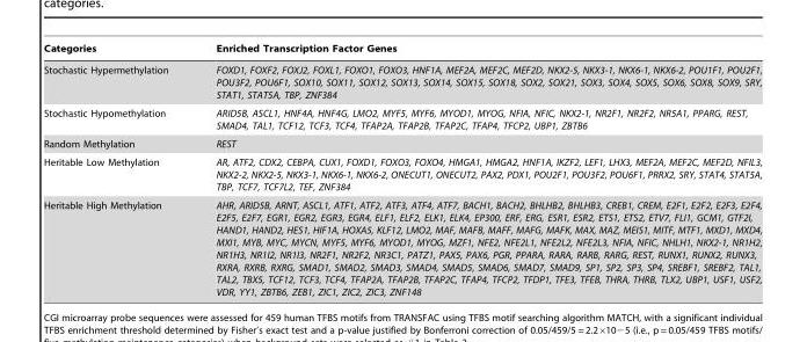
<table><thead><tr><td>Categories</td><td>Enriched Transcription Factor Genes</td></tr></thead><tbody><tr><td>Stochastic Hypermethylation</td><td>FOXD1, FOXF2, FOXJ2, FOXL1, FOXO1, FOXO3, HNF1A, MEF2A, MEF2C, MEF2D, NKX2-5, NKX3-1, NKX6-1, NKX6-2, POU1F1, POU2F1, POU3F2, POU6F1, SOX10, SOX11, SOX12, SOX13, SOX14, SOX15, SOX18, SOX2, SOX21, SOX3, SOX4, SOX5, SOX6, SOX8, SOX9, SRY, STAT1, STAT5A, TBP, ZNF384</td></tr><tr><td>Stochastic Hypomethylation</td><td>ARID5B, ASCL1, HNF4A, HNF4G, LMO2, MYF5, MYF6, MYOD1, MYOG, NFIA, NFIC, NKX2-1, NR2F1, NR2F2, NR5A1, PPARG, REST, SMAD4, TAL1, TCF12, TCF3, TCF4, TFAP2A, TFAP2B, TFAP2C, TFAP4, TFCP2, UBP1, ZBTB6</td></tr><tr><td>Random Methylation</td><td>REST</td></tr><tr><td>Heritable Low Methylation</td><td>AR, ATF2, CDX2, CEBPA, CUX1, FOXD1, FOXO3, FOXO4, HMGA1, HMGA2, HNF1A, IKZF2, LEF1, LHX3, MEF2A, MEF2C, MEF2D, NFIL3, NKX2-2, NKX2-5, NKX3-1, NKX6-1, NKX6-2, ONECUT1, ONECUT2, PAX2, PDX1, POU2F1, POU3F2, POU6F1, PRRX2, SRY, STAT4, STAT5A, TBP, TCF7, TCF7L2, TEF, ZNF384</td></tr><tr><td>Heritable High Methylation</td><td>AHR, ARID5B, ARNT, ASCL1, ATF1, ATF2, ATF3, ATF4, ATF7, BACH1, BACH2, BHLHB2, BHLHB3, CREB1, CREM, E2F1, E2F2, E2F3, E2F4, E2F5, E2F7, EGR1, EGR2, EGR3, EGR4, ELF1, ELF2, ELK1, ELK4, EP300, ERF, ERG, ESR1, ESR2, ETS1, ETS2, ETV7, FLI1, GCM1, GTF2I, HAND1, HAND2, HES1, HIF1A, HOXA5, KLF12, LMO2, MAF, MAFB, MAFF, MAFG, MAFK, MAX, MAZ, MEIS1, MITF, MTF1, MXD1, MXD4, MXI1, MYB, MYC, MYCN, MYF5, MYF6, MYOD1, MYOG, MZF1, NFE2, NFE2L1, NFE2L2, NFE2L3, NFIA, NFIC, NHLH1, NKX2-1, NR1H2, NR1H3, NR1I2, NR1I3, NR2F1, NR2F2, NR3C1, PATZ1, PAX5, PAX6, PGR, PPARA, RARA, RARB, RARG, REST, RUNX1, RUNX2, RUNX3, RXRA, RXRB, RXRG, SMAD1, SMAD2, SMAD3, SMAD4, SMAD5, SMAD6, SMAD7, SMAD9, SP1, SP2, SP3, SP4, SREBF1, SREBF2, TAL1, TAL2, TBX5, TCF12, TCF3, TCF4, TFAP2A, TFAP2B, TFAP2C, TFAP4, TFCP2, TFDP1, TFE3, TFEB, THRA, THRB, TLX2, UBP1, USF1, USF2, VDR, YY1, ZBTB6, ZEB1, ZIC1, ZIC2, ZIC3, ZNF148</td></tr></tbody></table>